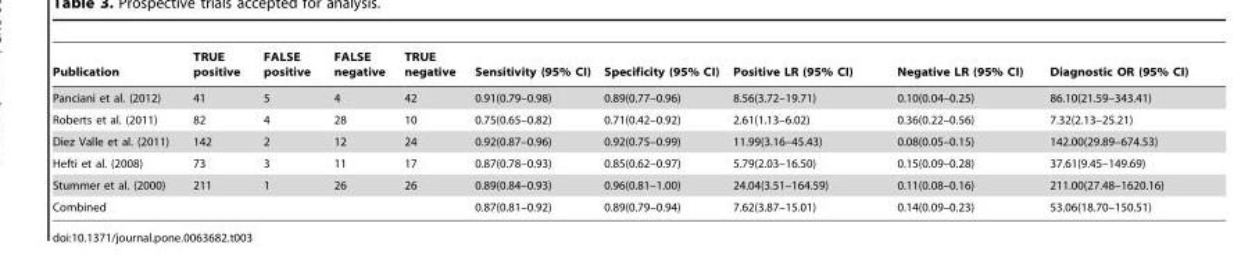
<table><thead><tr><td>Publication</td><td>TRUE positive</td><td>FALSE positive</td><td>FALSE negative</td><td>TRUE negative</td><td>Sensitivity (95% CI)</td><td>Specificity (95% CI)</td><td>Positive LR (95% CI)</td><td>Negative LR (95% CI)</td><td>Diagnostic OR (95% CI)</td></tr></thead><tbody><tr><td>Panciani et al. (2012)</td><td>41</td><td>5</td><td>4</td><td>42</td><td>0.91(0.79–0.98)</td><td>0.89(0.77–0.96)</td><td>8.56(3.72–19.71)</td><td>0.10(0.04–0.25)</td><td>86.10(21.59–343.41)</td></tr><tr><td>Roberts et al. (2011)</td><td>82</td><td>4</td><td>28</td><td>10</td><td>0.75(0.65–0.82)</td><td>0.71(0.42–0.92)</td><td>2.61(1.13–6.02)</td><td>0.36(0.22–0.56)</td><td>7.32(2.13–25.21)</td></tr><tr><td>Diez Valle et al. (2011)</td><td>142</td><td>2</td><td>12</td><td>24</td><td>0.92(0.87–0.96)</td><td>0.92(0.75–0.99)</td><td>11.99(3.16–45.43)</td><td>0.08(0.05–0.15)</td><td>142.00(29.89–674.53)</td></tr><tr><td>Hefti et al. (2008)</td><td>73</td><td>3</td><td>11</td><td>17</td><td>0.87(0.78–0.93)</td><td>0.85(0.62–0.97)</td><td>5.79(2.03–16.50)</td><td>0.15(0.09–0.28)</td><td>37.61(9.45–149.69)</td></tr><tr><td>Stummer et al. (2000)</td><td>211</td><td>1</td><td>26</td><td>26</td><td>0.89(0.84–0.93)</td><td>0.96(0.81–1.00)</td><td>24.04(3.51–164.59)</td><td>0.11(0.08–0.16)</td><td>211.00(27.48–1620.16)</td></tr><tr><td>Combined</td><td></td><td></td><td></td><td></td><td>0.87(0.81–0.92)</td><td>0.89(0.79–0.94)</td><td>7.62(3.87–15.01)</td><td>0.14(0.09–0.23)</td><td>53.06(18.70–150.51)</td></tr></tbody></table>